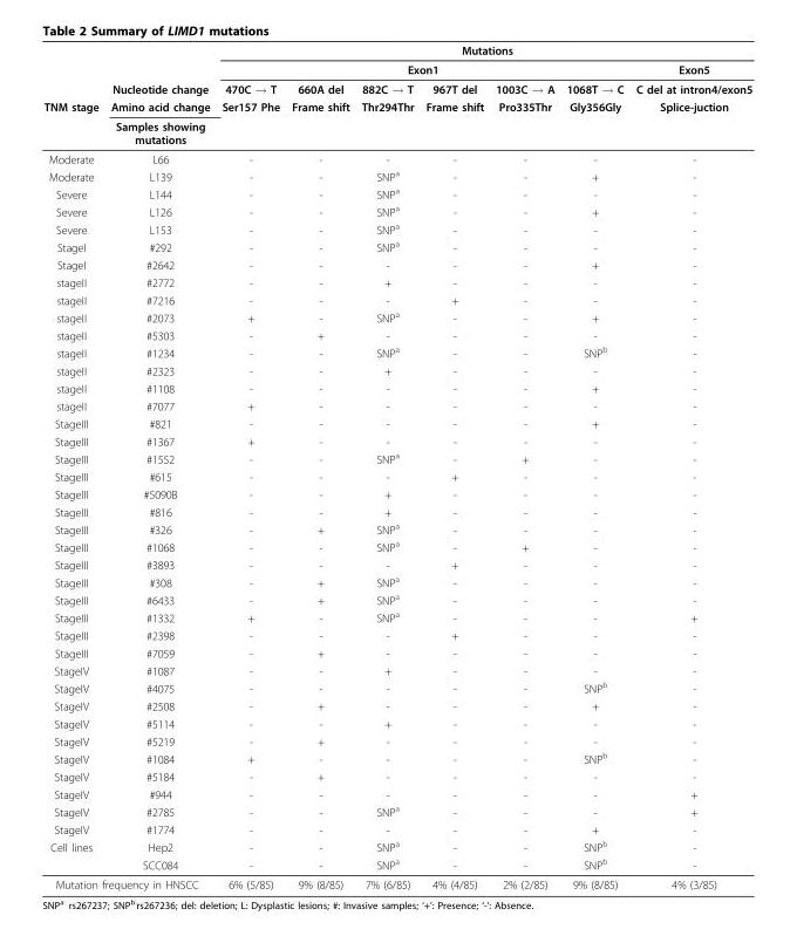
<table><thead><tr><td rowspan="5">TNM stage</td><td rowspan="5">Nucleotide change Amino acid change Samples showing mutations</td><td colspan="7">Mutations</td></tr><tr><td colspan="6">Exon1</td><td rowspan="4">Exon5 C del at intron4/exon5 Splice-juction</td></tr><tr><td rowspan="3">470C → T Ser157 Phe</td><td rowspan="3">660A del Frame shift</td><td rowspan="3">882C → T Thr294Thr</td><td rowspan="3">967T del Frame shift</td><td rowspan="3">1003C → A Pro335Thr</td><td rowspan="3">1068T → C Gly356Gly</td></tr><tr></tr><tr></tr></thead><tbody><tr><td>Moderate</td><td>L66</td><td>-</td><td>-</td><td>-</td><td>-</td><td>-</td><td>-</td><td>-</td></tr><tr><td>Moderate</td><td>L139</td><td>-</td><td>-</td><td>SNP<sup>a</sup></td><td>-</td><td>-</td><td>+</td><td>-</td></tr><tr><td>Severe</td><td>L144</td><td>-</td><td>-</td><td>SNP<sup>a</sup></td><td>-</td><td>-</td><td>-</td><td>-</td></tr><tr><td>Severe</td><td>L126</td><td>-</td><td>-</td><td>SNP<sup>a</sup></td><td>-</td><td>-</td><td>+</td><td>-</td></tr><tr><td>Severe</td><td>L153</td><td>-</td><td>-</td><td>SNP<sup>a</sup></td><td>-</td><td>-</td><td>-</td><td>-</td></tr><tr><td>StageI</td><td>#292</td><td>-</td><td>-</td><td>SNP<sup>a</sup></td><td>-</td><td>-</td><td>-</td><td>-</td></tr><tr><td>StageI</td><td>#2642</td><td>-</td><td>-</td><td>-</td><td>-</td><td>-</td><td>+</td><td>-</td></tr><tr><td>stageII</td><td>#2772</td><td>-</td><td>-</td><td>+</td><td>-</td><td>-</td><td>-</td><td>-</td></tr><tr><td>stageII</td><td>#7216</td><td>-</td><td>-</td><td>-</td><td>+</td><td>-</td><td>-</td><td>-</td></tr><tr><td>stageII</td><td>#2073</td><td>+</td><td>-</td><td>SNP<sup>a</sup></td><td>-</td><td>-</td><td>+</td><td>-</td></tr><tr><td>stageII</td><td>#5303</td><td>-</td><td>+</td><td>-</td><td>-</td><td>-</td><td>-</td><td>-</td></tr><tr><td>stageII</td><td>#1234</td><td>-</td><td>-</td><td>SNP<sup>a</sup></td><td>-</td><td>-</td><td>SNP<sup>b</sup></td><td>-</td></tr><tr><td>stageII</td><td>#2323</td><td>-</td><td>-</td><td>+</td><td>-</td><td>-</td><td>-</td><td>-</td></tr><tr><td>stageII</td><td>#1108</td><td>-</td><td>-</td><td>-</td><td>-</td><td>-</td><td>+</td><td>-</td></tr><tr><td>stageII</td><td>#7077</td><td>+</td><td>-</td><td>-</td><td>-</td><td>-</td><td>-</td><td>-</td></tr><tr><td>StageIII</td><td>#821</td><td>-</td><td>-</td><td>-</td><td>-</td><td>-</td><td>+</td><td>-</td></tr><tr><td>StageIII</td><td>#1367</td><td>+</td><td>-</td><td>-</td><td>-</td><td>-</td><td>-</td><td>-</td></tr><tr><td>StageIII</td><td>#1552</td><td>-</td><td>-</td><td>SNP<sup>a</sup></td><td>-</td><td>+</td><td>-</td><td>-</td></tr><tr><td>StageIII</td><td>#615</td><td>-</td><td>-</td><td>-</td><td>+</td><td>-</td><td>-</td><td>-</td></tr><tr><td>StageIII</td><td>#5090B</td><td>-</td><td>-</td><td>+</td><td>-</td><td>-</td><td>-</td><td>-</td></tr><tr><td>StageIII</td><td>#816</td><td>-</td><td>-</td><td>+</td><td>-</td><td>-</td><td>-</td><td>-</td></tr><tr><td>StageIII</td><td>#326</td><td>-</td><td>+</td><td>SNP<sup>a</sup></td><td>-</td><td>-</td><td>-</td><td>-</td></tr><tr><td>StageIII</td><td>#1068</td><td>-</td><td>-</td><td>SNP<sup>a</sup></td><td>-</td><td>+</td><td>-</td><td>-</td></tr><tr><td>StageIII</td><td>#3893</td><td>-</td><td>-</td><td>-</td><td>+</td><td>-</td><td>-</td><td>-</td></tr><tr><td>StageIII</td><td>#308</td><td>-</td><td>+</td><td>SNP<sup>a</sup></td><td>-</td><td>-</td><td>-</td><td>-</td></tr><tr><td>StageIII</td><td>#6433</td><td>-</td><td>+</td><td>SNP<sup>a</sup></td><td>-</td><td>-</td><td>-</td><td>-</td></tr><tr><td>StageIII</td><td>#1332</td><td>+</td><td>-</td><td>SNP<sup>a</sup></td><td>-</td><td>-</td><td>-</td><td>+</td></tr><tr><td>StageIII</td><td>#2398</td><td>-</td><td>-</td><td>-</td><td>+</td><td>-</td><td>-</td><td>-</td></tr><tr><td>StageIII</td><td>#7059</td><td>-</td><td>+</td><td>-</td><td>-</td><td>-</td><td>-</td><td>-</td></tr><tr><td>StageIV</td><td>#1087</td><td>-</td><td>-</td><td>+</td><td>-</td><td>-</td><td>-</td><td>-</td></tr><tr><td>StageIV</td><td>#4075</td><td>-</td><td>-</td><td>-</td><td>-</td><td>-</td><td>SNP<sup>b</sup></td><td>-</td></tr><tr><td>StageIV</td><td>#2508</td><td>-</td><td>+</td><td>-</td><td>-</td><td>-</td><td>+</td><td>-</td></tr><tr><td>StageIV</td><td>#5114</td><td>-</td><td>-</td><td>+</td><td>-</td><td>-</td><td>-</td><td>-</td></tr><tr><td>StageIV</td><td>#5219</td><td>-</td><td>+</td><td>-</td><td>-</td><td>-</td><td>-</td><td>-</td></tr><tr><td>StageIV</td><td>#1084</td><td>+</td><td>-</td><td>-</td><td>-</td><td>-</td><td>SNP<sup>b</sup></td><td>-</td></tr><tr><td>StageIV</td><td>#5184</td><td>-</td><td>+</td><td>-</td><td>-</td><td>-</td><td>-</td><td>-</td></tr><tr><td>StageIV</td><td>#944</td><td>-</td><td>-</td><td>-</td><td>-</td><td>-</td><td>-</td><td>+</td></tr><tr><td>StageIV</td><td>#2785</td><td>-</td><td>-</td><td>SNP<sup>a</sup></td><td>-</td><td>-</td><td>-</td><td>+</td></tr><tr><td>StageIV</td><td>#1774</td><td>-</td><td>-</td><td>-</td><td>-</td><td>-</td><td>+</td><td>-</td></tr><tr><td rowspan="2">Cell lines</td><td>Hep2</td><td>-</td><td>-</td><td>SNP<sup>a</sup></td><td>-</td><td>-</td><td>SNP<sup>b</sup></td><td>-</td></tr><tr><td>SCC084</td><td>-</td><td>-</td><td>SNP<sup>a</sup></td><td>-</td><td>-</td><td>SNP<sup>b</sup></td><td>-</td></tr><tr><td colspan="2">Mutation frequency in HNSCC</td><td>6% (5/85)</td><td>9% (8/85)</td><td>7% (6/85)</td><td>4% (4/85)</td><td>2% (2/85)</td><td>9% (8/85)</td><td>4% (3/85)</td></tr></tbody></table>